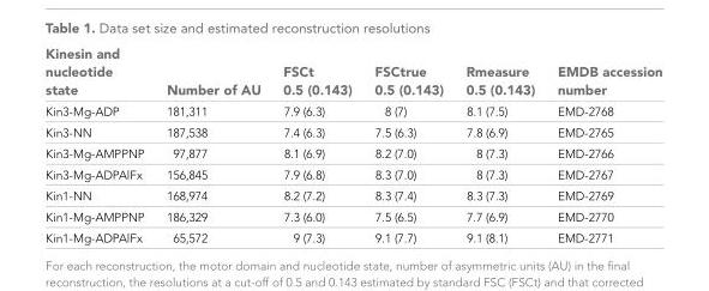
<table><thead><tr><td>Kinesin and nucleotide state</td><td>Number of AU</td><td>FSCt 0.5 (0.143)</td><td>FSCtrue 0.5 (0.143)</td><td>Rmeasure 0.5 (0.143)</td><td>EMDB accession number</td></tr></thead><tbody><tr><td>Kin3-Mg-ADP</td><td>181,311</td><td>7.9 (6.3)</td><td>8 (7)</td><td>8.1 (7.5)</td><td>EMD-2768</td></tr><tr><td>Kin3-NN</td><td>187,538</td><td>7.4 (6.3)</td><td>7.5 (6.3)</td><td>7.8 (6.9)</td><td>EMD-2765</td></tr><tr><td>Kin3-Mg-AMPPNP</td><td>97,877</td><td>8.1 (6.9)</td><td>8.2 (7.0)</td><td>8 (7.3)</td><td>EMD-2766</td></tr><tr><td>Kin3-Mg-ADPAlFx</td><td>156,845</td><td>7.9 (6.8)</td><td>8.3 (7.0)</td><td>8 (7.3)</td><td>EMD-2767</td></tr><tr><td>Kin1-NN</td><td>168,974</td><td>8.2 (7.2)</td><td>8.3 (7.4)</td><td>8.3 (7.3)</td><td>EMD-2769</td></tr><tr><td>Kin1-Mg-AMPPNP</td><td>186,329</td><td>7.3 (6.0)</td><td>7.5 (6.5)</td><td>7.7 (6.9)</td><td>EMD-2770</td></tr><tr><td>Kin1-Mg-ADPAlFx</td><td>65,572</td><td>9 (7.3)</td><td>9.1 (7.7)</td><td>9.1 (8.1)</td><td>EMD-2771</td></tr></tbody></table>